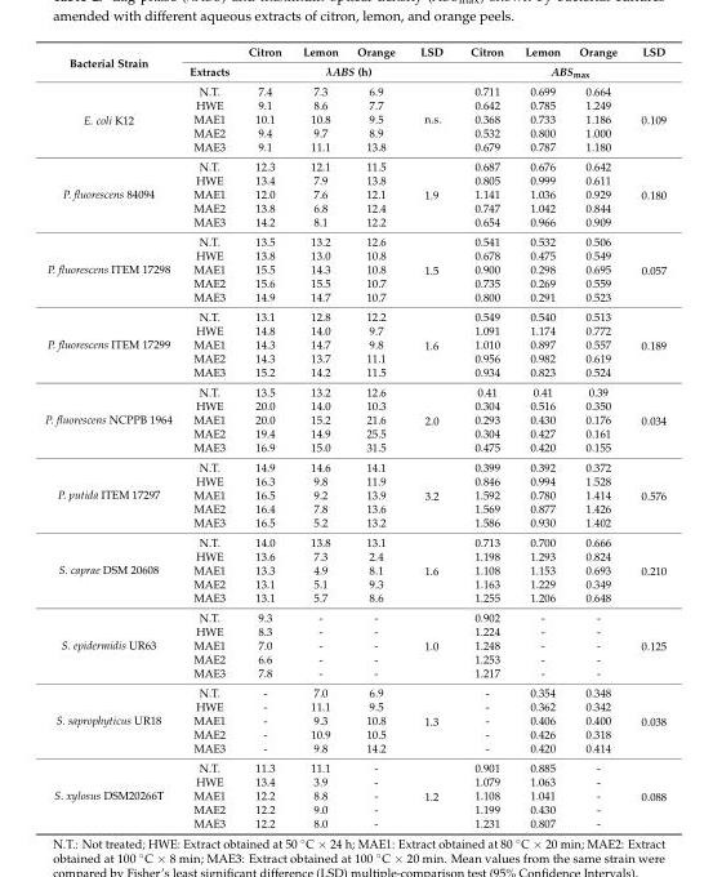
<table><thead><tr><td rowspan="2">Bacterial Strain</td><td rowspan="2">Extracts</td><td>Citron</td><td>Lemon</td><td>Orange</td><td>LSD</td><td>Citron</td><td>Lemon</td><td>Orange</td><td>LSD</td></tr><tr><td colspan="4">λABS (h)</td><td colspan="4">ABS<sub>max</sub></td></tr></thead><tbody><tr><td rowspan="5">E. coli K12</td><td>N.T.</td><td>7.4</td><td>7.3</td><td>6.9</td><td rowspan="5">n.s.</td><td>0.711</td><td>0.699</td><td>0.664</td><td rowspan="5">0.109</td></tr><tr><td>HWE</td><td>9.1</td><td>8.6</td><td>7.7</td><td>0.642</td><td>0.785</td><td>1.249</td></tr><tr><td>MAE1</td><td>10.1</td><td>10.8</td><td>9.5</td><td>0.368</td><td>0.733</td><td>1.186</td></tr><tr><td>MAE2</td><td>9.4</td><td>9.7</td><td>8.9</td><td>0.532</td><td>0.800</td><td>1.000</td></tr><tr><td>MAE3</td><td>9.1</td><td>11.1</td><td>13.8</td><td>0.679</td><td>0.787</td><td>1.180</td></tr><tr><td rowspan="5">P. fluorescens 84094</td><td>N.T.</td><td>12.3</td><td>12.1</td><td>11.5</td><td rowspan="5">1.9</td><td>0.687</td><td>0.676</td><td>0.642</td><td rowspan="5">0.180</td></tr><tr><td>HWE</td><td>13.4</td><td>7.9</td><td>13.8</td><td>0.805</td><td>0.999</td><td>0.611</td></tr><tr><td>MAE1</td><td>12.0</td><td>7.6</td><td>12.1</td><td>1.141</td><td>1.036</td><td>0.929</td></tr><tr><td>MAE2</td><td>13.8</td><td>6.8</td><td>12.4</td><td>0.747</td><td>1.042</td><td>0.844</td></tr><tr><td>MAE3</td><td>14.2</td><td>8.1</td><td>12.2</td><td>0.654</td><td>0.966</td><td>0.909</td></tr><tr><td rowspan="5">P. fluorescens ITEM 17298</td><td>N.T.</td><td>13.5</td><td>13.2</td><td>12.6</td><td rowspan="5">1.5</td><td>0.541</td><td>0.532</td><td>0.506</td><td rowspan="5">0.057</td></tr><tr><td>HWE</td><td>13.8</td><td>13.0</td><td>10.8</td><td>0.678</td><td>0.475</td><td>0.549</td></tr><tr><td>MAE1</td><td>15.5</td><td>14.3</td><td>10.8</td><td>0.900</td><td>0.298</td><td>0.695</td></tr><tr><td>MAE2</td><td>15.6</td><td>15.5</td><td>10.7</td><td>0.735</td><td>0.269</td><td>0.559</td></tr><tr><td>MAE3</td><td>14.9</td><td>14.7</td><td>10.7</td><td>0.800</td><td>0.291</td><td>0.523</td></tr><tr><td rowspan="5">P. fluorescens ITEM 17299</td><td>N.T.</td><td>13.1</td><td>12.8</td><td>12.2</td><td rowspan="5">1.6</td><td>0.549</td><td>0.540</td><td>0.513</td><td rowspan="5">0.189</td></tr><tr><td>HWE</td><td>14.8</td><td>14.0</td><td>9.7</td><td>1.091</td><td>1.174</td><td>0.772</td></tr><tr><td>MAE1</td><td>14.3</td><td>14.7</td><td>9.8</td><td>1.010</td><td>0.897</td><td>0.557</td></tr><tr><td>MAE2</td><td>14.3</td><td>13.7</td><td>11.1</td><td>0.956</td><td>0.982</td><td>0.619</td></tr><tr><td>MAE3</td><td>15.2</td><td>14.2</td><td>11.5</td><td>0.934</td><td>0.823</td><td>0.524</td></tr><tr><td rowspan="5">P. fluorescens NCPPB 1964</td><td>N.T.</td><td>13.5</td><td>13.2</td><td>12.6</td><td rowspan="5">2.0</td><td>0.41</td><td>0.41</td><td>0.39</td><td rowspan="5">0.034</td></tr><tr><td>HWE</td><td>20.0</td><td>14.0</td><td>10.3</td><td>0.304</td><td>0.516</td><td>0.350</td></tr><tr><td>MAE1</td><td>20.0</td><td>15.2</td><td>21.6</td><td>0.293</td><td>0.430</td><td>0.176</td></tr><tr><td>MAE2</td><td>19.4</td><td>14.9</td><td>25.5</td><td>0.304</td><td>0.427</td><td>0.161</td></tr><tr><td>MAE3</td><td>16.9</td><td>15.0</td><td>31.5</td><td>0.475</td><td>0.420</td><td>0.155</td></tr><tr><td rowspan="5">P. putida ITEM 17297</td><td>N.T.</td><td>14.9</td><td>14.6</td><td>14.1</td><td rowspan="5">3.2</td><td>0.399</td><td>0.392</td><td>0.372</td><td rowspan="5">0.576</td></tr><tr><td>HWE</td><td>16.3</td><td>9.8</td><td>11.9</td><td>0.846</td><td>0.994</td><td>1.528</td></tr><tr><td>MAE1</td><td>16.5</td><td>9.2</td><td>13.9</td><td>1.592</td><td>0.780</td><td>1.414</td></tr><tr><td>MAE2</td><td>16.4</td><td>7.8</td><td>13.6</td><td>1.569</td><td>0.877</td><td>1.426</td></tr><tr><td>MAE3</td><td>16.5</td><td>5.2</td><td>13.2</td><td>1.586</td><td>0.930</td><td>1.402</td></tr><tr><td rowspan="5">S. caprae DSM 20608</td><td>N.T.</td><td>14.0</td><td>13.8</td><td>13.1</td><td rowspan="5">1.6</td><td>0.713</td><td>0.700</td><td>0.666</td><td rowspan="5">0.210</td></tr><tr><td>HWE</td><td>13.6</td><td>7.3</td><td>2.4</td><td>1.198</td><td>1.293</td><td>0.824</td></tr><tr><td>MAE1</td><td>13.3</td><td>4.9</td><td>8.1</td><td>1.108</td><td>1.153</td><td>0.693</td></tr><tr><td>MAE2</td><td>13.1</td><td>5.1</td><td>9.3</td><td>1.163</td><td>1.229</td><td>0.349</td></tr><tr><td>MAE3</td><td>13.1</td><td>5.7</td><td>8.6</td><td>1.255</td><td>1.206</td><td>0.648</td></tr><tr><td rowspan="5">S. epidermidis UR63</td><td>N.T.</td><td>9.3</td><td>-</td><td>-</td><td rowspan="5">1.0</td><td>0.902</td><td>-</td><td>-</td><td rowspan="5">0.125</td></tr><tr><td>HWE</td><td>8.3</td><td>-</td><td>-</td><td>1.224</td><td>-</td><td>-</td></tr><tr><td>MAE1</td><td>7.0</td><td>-</td><td>-</td><td>1.248</td><td>-</td><td>-</td></tr><tr><td>MAE2</td><td>6.6</td><td>-</td><td>-</td><td>1.253</td><td>-</td><td>-</td></tr><tr><td>MAE3</td><td>7.8</td><td>-</td><td>-</td><td>1.217</td><td>-</td><td>-</td></tr><tr><td rowspan="5">S. saprophyticus UR18</td><td>N.T.</td><td>-</td><td>7.0</td><td>6.9</td><td rowspan="5">1.3</td><td>-</td><td>0.354</td><td>0.348</td><td rowspan="5">0.038</td></tr><tr><td>HWE</td><td>-</td><td>11.1</td><td>9.5</td><td>-</td><td>0.362</td><td>0.342</td></tr><tr><td>MAE1</td><td>-</td><td>9.3</td><td>10.8</td><td>-</td><td>0.406</td><td>0.400</td></tr><tr><td>MAE2</td><td>-</td><td>10.9</td><td>10.5</td><td>-</td><td>0.426</td><td>0.318</td></tr><tr><td>MAE3</td><td>-</td><td>9.8</td><td>14.2</td><td>-</td><td>0.420</td><td>0.414</td></tr><tr><td rowspan="5">S. xylosus DSM20266T</td><td>N.T.</td><td>11.3</td><td>11.1</td><td>-</td><td rowspan="5">1.2</td><td>0.901</td><td>0.885</td><td>-</td><td rowspan="5">0.088</td></tr><tr><td>HWE</td><td>13.4</td><td>3.9</td><td>-</td><td>1.079</td><td>1.063</td><td>-</td></tr><tr><td>MAE1</td><td>12.2</td><td>8.8</td><td>-</td><td>1.108</td><td>1.041</td><td>-</td></tr><tr><td>MAE2</td><td>12.2</td><td>9.0</td><td>-</td><td>1.199</td><td>0.430</td><td>-</td></tr><tr><td>MAE3</td><td>12.2</td><td>8.0</td><td>-</td><td>1.231</td><td>0.807</td><td>-</td></tr></tbody></table>